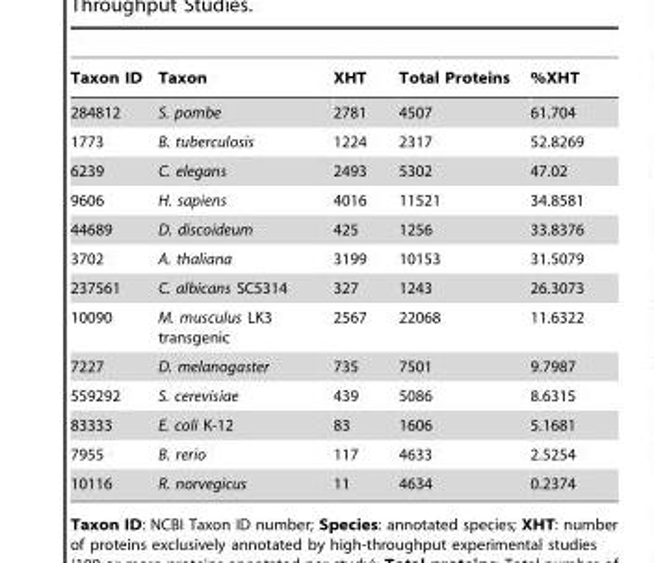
<table><thead><tr><td>Taxon ID</td><td>Taxon</td><td>XHT</td><td>Total Proteins</td><td>%XHT</td></tr></thead><tbody><tr><td>284812</td><td>S. pombe</td><td>2781</td><td>4507</td><td>61.704</td></tr><tr><td>1773</td><td>B. tuberculosis</td><td>1224</td><td>2317</td><td>52.8269</td></tr><tr><td>6239</td><td>C. elegans</td><td>2493</td><td>5302</td><td>47.02</td></tr><tr><td>9606</td><td>H. sapiens</td><td>4016</td><td>11521</td><td>34.8581</td></tr><tr><td>44689</td><td>D. discoideum</td><td>425</td><td>1256</td><td>33.8376</td></tr><tr><td>3702</td><td>A. thaliana</td><td>3199</td><td>10153</td><td>31.5079</td></tr><tr><td>237561</td><td>C. albicans SC5314</td><td>327</td><td>1243</td><td>26.3073</td></tr><tr><td>10090</td><td>M. musculus LK3 transgenic</td><td>2567</td><td>22068</td><td>11.6322</td></tr><tr><td>7227</td><td>D. melanogaster</td><td>735</td><td>7501</td><td>9.7987</td></tr><tr><td>559292</td><td>S. cerevisiae</td><td>439</td><td>5086</td><td>8.6315</td></tr><tr><td>83333</td><td>E. coli K-12</td><td>83</td><td>1606</td><td>5.1681</td></tr><tr><td>7955</td><td>B. rerio</td><td>117</td><td>4633</td><td>2.5254</td></tr><tr><td>10116</td><td>R. norvegicus</td><td>11</td><td>4634</td><td>0.2374</td></tr></tbody></table>